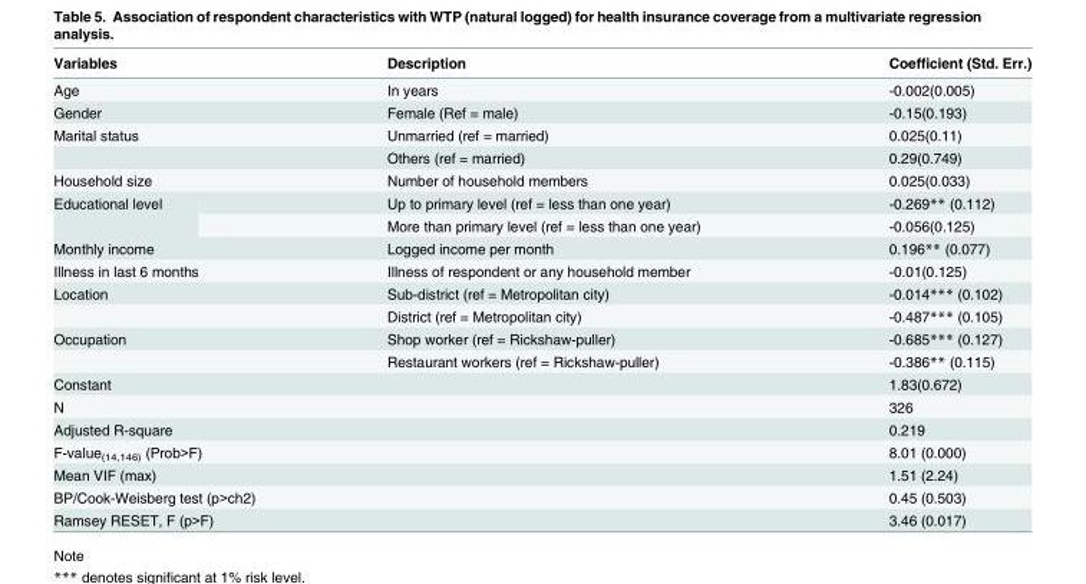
<table><thead><tr><td>Variables</td><td>Description</td><td>Coefficient (Std. Err.)</td></tr></thead><tbody><tr><td>Age</td><td>In years</td><td>-0.002(0.005)</td></tr><tr><td>Gender</td><td>Female (Ref = male)</td><td>-0.15(0.193)</td></tr><tr><td rowspan="2">Marital status</td><td>Unmarried (ref = married)</td><td>0.025(0.11)</td></tr><tr><td>Others (ref = married)</td><td>0.29(0.749)</td></tr><tr><td>Household size</td><td>Number of household members</td><td>0.025(0.033)</td></tr><tr><td rowspan="2">Educational level</td><td>Up to primary level (ref = less than one year)</td><td>-0.269** (0.112)</td></tr><tr><td>More than primary level (ref = less than one year)</td><td>-0.056(0.125)</td></tr><tr><td>Monthly income</td><td>Logged income per month</td><td>0.196** (0.077)</td></tr><tr><td>Illness in last 6 months</td><td>Illness of respondent or any household member</td><td>-0.01(0.125)</td></tr><tr><td rowspan="2">Location</td><td>Sub-district (ref = Metropolitan city)</td><td>-0.014*** (0.102)</td></tr><tr><td>District (ref = Metropolitan city)</td><td>-0.487*** (0.105)</td></tr><tr><td rowspan="2">Occupation</td><td>Shop worker (ref = Rickshaw-puller)</td><td>-0.685*** (0.127)</td></tr><tr><td>Restaurant workers (ref = Rickshaw-puller)</td><td>-0.386** (0.115)</td></tr><tr><td>Constant</td><td></td><td>1.83(0.672)</td></tr><tr><td>N</td><td></td><td>326</td></tr><tr><td colspan="2">Adjusted R-square</td><td>0.219</td></tr><tr><td colspan="2">F-value<sub>(14,146)</sub> (Prob&gt;F)</td><td>8.01 (0.000)</td></tr><tr><td colspan="2">Mean VIF (max)</td><td>1.51 (2.24)</td></tr><tr><td colspan="2">BP/Cook-Weisberg test (p&gt;ch2)</td><td>0.45 (0.503)</td></tr><tr><td colspan="2">Ramsey RESET, F (p&gt;F)</td><td>3.46 (0.017)</td></tr></tbody></table>